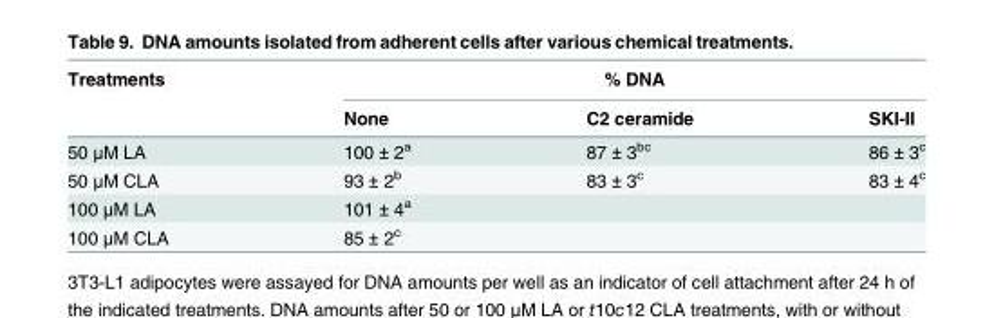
<table><thead><tr><td rowspan="2">Treatments</td><td colspan="3">% DNA</td></tr><tr><td>None</td><td>C2 ceramide</td><td>SKI-II</td></tr></thead><tbody><tr><td>50 μM LA</td><td>100 ± 2<sup>a</sup></td><td>87 ± 3<sup>bc</sup></td><td>86 ± 3<sup>c</sup></td></tr><tr><td>50 μM CLA</td><td>93 ± 2<sup>b</sup></td><td>83 ± 3<sup>c</sup></td><td>83 ± 4<sup>c</sup></td></tr><tr><td>100 μM LA</td><td>101 ± 4<sup>a</sup></td><td></td><td></td></tr><tr><td>100 μM CLA</td><td>85 ± 2<sup>c</sup></td><td></td><td></td></tr></tbody></table>